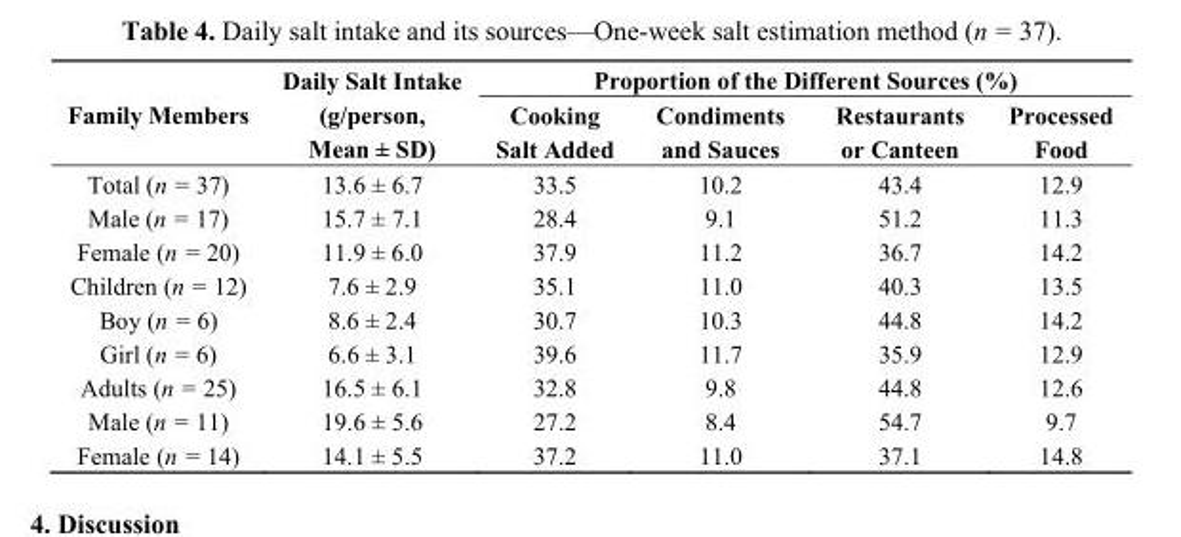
<table><thead><tr><td rowspan="2">Family Members</td><td rowspan="2">Daily Salt Intake (g/person, Mean ± SD)</td><td colspan="4">Proportion of the Different Sources (%)</td></tr><tr><td>Cooking Salt Added</td><td>Condiments and Sauces</td><td>Restaurants or Canteen</td><td>Processed Food</td></tr></thead><tbody><tr><td>Total (n = 37)</td><td>13.6 ± 6.7</td><td>33.5</td><td>10.2</td><td>43.4</td><td>12.9</td></tr><tr><td>Male (n = 17)</td><td>15.7 ± 7.1</td><td>28.4</td><td>9.1</td><td>51.2</td><td>11.3</td></tr><tr><td>Female (n = 20)</td><td>11.9 ± 6.0</td><td>37.9</td><td>11.2</td><td>36.7</td><td>14.2</td></tr><tr><td>Children (n = 12)</td><td>7.6 ± 2.9</td><td>35.1</td><td>11.0</td><td>40.3</td><td>13.5</td></tr><tr><td>Boy (n = 6)</td><td>8.6 ± 2.4</td><td>30.7</td><td>10.3</td><td>44.8</td><td>14.2</td></tr><tr><td>Girl (n = 6)</td><td>6.6 ± 3.1</td><td>39.6</td><td>11.7</td><td>35.9</td><td>12.9</td></tr><tr><td>Adults (n = 25)</td><td>16.5 ± 6.1</td><td>32.8</td><td>9.8</td><td>44.8</td><td>12.6</td></tr><tr><td>Male (n = 11)</td><td>19.6 ± 5.6</td><td>27.2</td><td>8.4</td><td>54.7</td><td>9.7</td></tr><tr><td>Female (n = 14)</td><td>14.1 ± 5.5</td><td>37.2</td><td>11.0</td><td>37.1</td><td>14.8</td></tr></tbody></table>